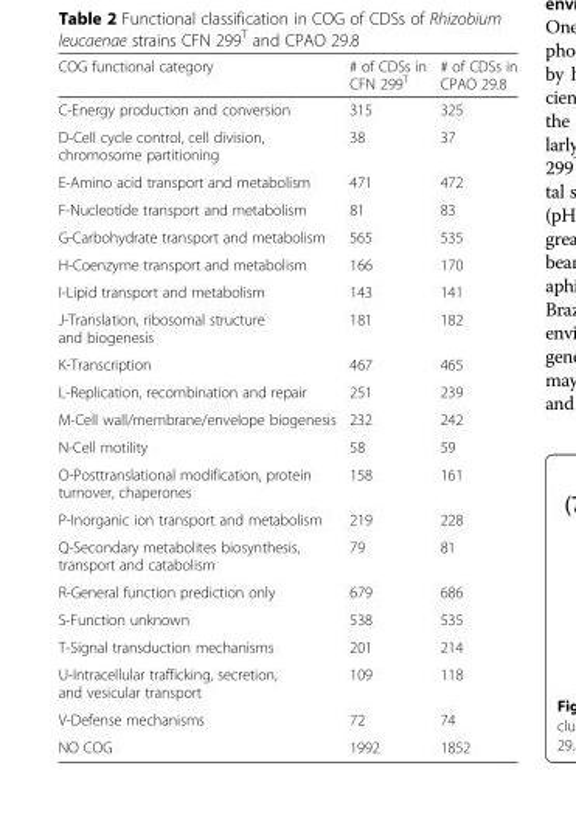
<table><thead><tr><td>COG functional category</td><td># of CDSs in CFN 299<sup>T</sup></td><td># of CDSs in CPAO 29.8</td></tr></thead><tbody><tr><td>C-Energy production and conversion</td><td>315</td><td>325</td></tr><tr><td>D-Cell cycle control, cell division, chromosome partitioning</td><td>38</td><td>37</td></tr><tr><td>E-Amino acid transport and metabolism</td><td>471</td><td>472</td></tr><tr><td>F-Nucleotide transport and metabolism</td><td>81</td><td>83</td></tr><tr><td>G-Carbohydrate transport and metabolism</td><td>565</td><td>535</td></tr><tr><td>H-Coenzyme transport and metabolism</td><td>166</td><td>170</td></tr><tr><td>I-Lipid transport and metabolism</td><td>143</td><td>141</td></tr><tr><td>J-Translation, ribosomal structure and biogenesis</td><td>181</td><td>182</td></tr><tr><td>K-Transcription</td><td>467</td><td>465</td></tr><tr><td>L-Replication, recombination and repair</td><td>251</td><td>239</td></tr><tr><td>M-Cell wall/membrane/envelope biogenesis</td><td>232</td><td>242</td></tr><tr><td>N-Cell motility</td><td>58</td><td>59</td></tr><tr><td>O-Posttranslational modification, protein turnover, chaperones</td><td>158</td><td>161</td></tr><tr><td>P-Inorganic ion transport and metabolism</td><td>219</td><td>228</td></tr><tr><td>Q-Secondary metabolites biosynthesis, transport and catabolism</td><td>79</td><td>81</td></tr><tr><td>R-General function prediction only</td><td>679</td><td>686</td></tr><tr><td>S-Function unknown</td><td>538</td><td>535</td></tr><tr><td>T-Signal transduction mechanisms</td><td>201</td><td>214</td></tr><tr><td>U-Intracellular trafficking, secretion, and vesicular transport</td><td>109</td><td>118</td></tr><tr><td>V-Defense mechanisms</td><td>72</td><td>74</td></tr><tr><td>NO COG</td><td>1992</td><td>1852</td></tr></tbody></table>